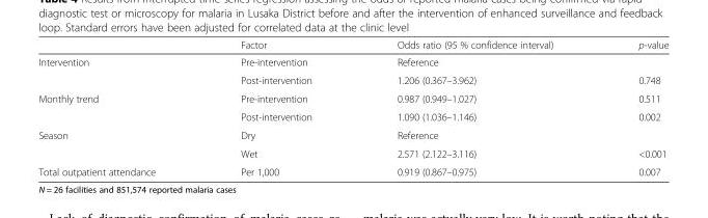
<table><thead><tr><td></td><td>Factor</td><td>Odds ratio (95 % confidence interval)</td><td>p-value</td></tr></thead><tbody><tr><td rowspan="2">Intervention</td><td>Pre-intervention</td><td>Reference</td><td></td></tr><tr><td>Post-intervention</td><td>1.206 (0.367–3.962)</td><td>0.748</td></tr><tr><td rowspan="2">Monthly trend</td><td>Pre-intervention</td><td>0.987 (0.949–1.027)</td><td>0.511</td></tr><tr><td>Post-intervention</td><td>1.090 (1.036–1.146)</td><td>0.002</td></tr><tr><td rowspan="2">Season</td><td>Dry</td><td>Reference</td><td></td></tr><tr><td>Wet</td><td>2.571 (2.122–3.116)</td><td>&lt;0.001</td></tr><tr><td>Total outpatient attendance</td><td>Per 1,000</td><td>0.919 (0.867–0.975)</td><td>0.007</td></tr></tbody></table>